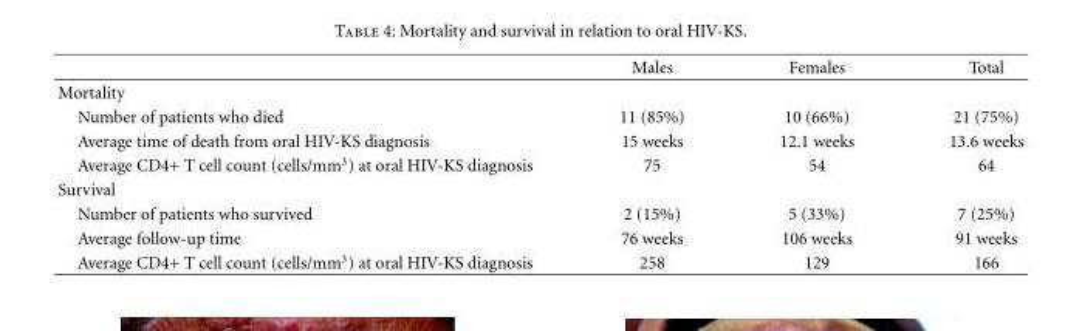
<table><thead><tr><td></td><td>Males</td><td>Females</td><td>Total</td></tr></thead><tbody><tr><td colspan="4">Mortality</td></tr><tr><td>Number of patients who died</td><td>11 (85%)</td><td>10 (66%)</td><td>21 (75%)</td></tr><tr><td>Average time of death from oral HIV-KS diagnosis</td><td>15 weeks</td><td>12.1 weeks</td><td>13.6 weeks</td></tr><tr><td>Average CD4+ T cell count (cells/mm<sup>3</sup>) at oral HIV-KS diagnosis</td><td>75</td><td>54</td><td>64</td></tr><tr><td colspan="4">Survival</td></tr><tr><td>Number of patients who survived</td><td>2 (15%)</td><td>5 (33%)</td><td>7 (25%)</td></tr><tr><td>Average follow-up time</td><td>76 weeks</td><td>106 weeks</td><td>91 weeks</td></tr><tr><td>Average CD4+ T cell count (cells/mm<sup>3</sup>) at oral HIV-KS diagnosis</td><td>258</td><td>129</td><td>166</td></tr></tbody></table>